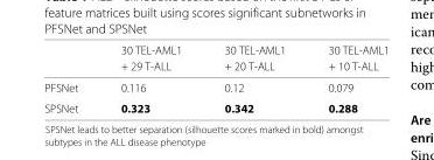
<table><thead><tr><td rowspan="2"></td><td rowspan="2">30 TEL-AML1 + 29 T-ALL</td><td rowspan="2">30 TEL-AML1 + 20 T-ALL</td><td rowspan="2">30 TEL-AML1 + 10 T-ALL</td></tr><tr></tr></thead><tbody><tr><td>PFSNet</td><td>0.116</td><td>0.12</td><td>0.079</td></tr><tr><td>SPSNet</td><td>0.323</td><td>0.342</td><td>0.288</td></tr></tbody></table>